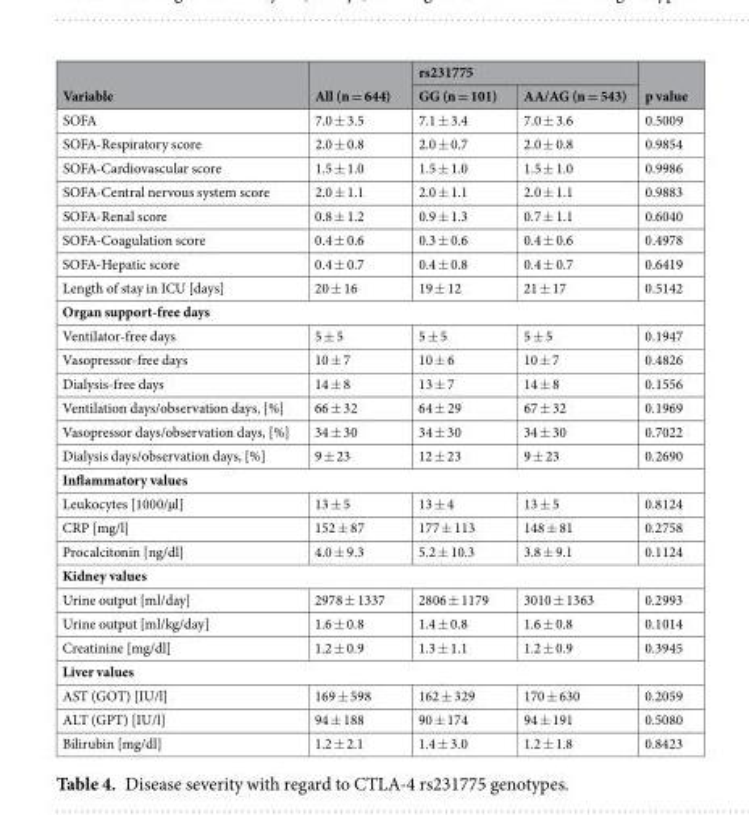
<table><thead><tr><td rowspan="2">Variable</td><td rowspan="2">All (n = 644)</td><td colspan="2">rs231775</td><td rowspan="2">p value</td></tr><tr><td>GG (n = 101)</td><td>AA/AG (n = 543)</td></tr></thead><tbody><tr><td>SOFA</td><td>7.0 ± 3.5</td><td>7.1 ± 3.4</td><td>7.0 ± 3.6</td><td>0.5009</td></tr><tr><td>SOFA-Respiratory score</td><td>2.0 ± 0.8</td><td>2.0 ± 0.7</td><td>2.0 ± 0.8</td><td>0.9854</td></tr><tr><td>SOFA-Cardiovascular score</td><td>1.5 ± 1.0</td><td>1.5 ± 1.0</td><td>1.5 ± 1.0</td><td>0.9986</td></tr><tr><td>SOFA-Central nervous system score</td><td>2.0 ± 1.1</td><td>2.0 ± 1.1</td><td>2.0 ± 1.1</td><td>0.9883</td></tr><tr><td>SOFA-Renal score</td><td>0.8 ± 1.2</td><td>0.9 ± 1.3</td><td>0.7 ± 1.1</td><td>0.6040</td></tr><tr><td>SOFA-Coagulation score</td><td>0.4 ± 0.6</td><td>0.3 ± 0.6</td><td>0.4 ± 0.6</td><td>0.4978</td></tr><tr><td>SOFA-Hepatic score</td><td>0.4 ± 0.7</td><td>0.4 ± 0.8</td><td>0.4 ± 0.7</td><td>0.6419</td></tr><tr><td>Length of stay in ICU [days]</td><td>20 ± 16</td><td>19 ± 12</td><td>21 ± 17</td><td>0.5142</td></tr><tr><td colspan="5">Organ support-free days</td></tr><tr><td>Ventilator-free days</td><td>5 ± 5</td><td>5 ± 5</td><td>5 ± 5</td><td>0.1947</td></tr><tr><td>Vasopressor-free days</td><td>10 ± 7</td><td>10 ± 6</td><td>10 ± 7</td><td>0.4826</td></tr><tr><td>Dialysis-free days</td><td>14 ± 8</td><td>13 ± 7</td><td>14 ± 8</td><td>0.1556</td></tr><tr><td>Ventilation days/observation days, [%]</td><td>66 ± 32</td><td>64 ± 29</td><td>67 ± 32</td><td>0.1969</td></tr><tr><td>Vasopressor days/observation days, [%]</td><td>34 ± 30</td><td>34 ± 30</td><td>34 ± 30</td><td>0.7022</td></tr><tr><td>Dialysis days/observation days, [%]</td><td>9 ± 23</td><td>12 ± 23</td><td>9 ± 23</td><td>0.2690</td></tr><tr><td colspan="5">Inflammatory values</td></tr><tr><td>Leukocytes [1000/µl]</td><td>13 ± 5</td><td>13 ± 4</td><td>13 ± 5</td><td>0.8124</td></tr><tr><td>CRP [mg/l]</td><td>152 ± 87</td><td>177 ± 113</td><td>148 ± 81</td><td>0.2758</td></tr><tr><td>Procalcitonin [ng/dl]</td><td>4.0 ± 9.3</td><td>5.2 ± 10.3</td><td>3.8 ± 9.1</td><td>0.1124</td></tr><tr><td colspan="5">Kidney values</td></tr><tr><td>Urine output [ml/day]</td><td>2978 ± 1337</td><td>2806 ± 1179</td><td>3010 ± 1363</td><td>0.2993</td></tr><tr><td>Urine output [ml/kg/day]</td><td>1.6 ± 0.8</td><td>1.4 ± 0.8</td><td>1.6 ± 0.8</td><td>0.1014</td></tr><tr><td>Creatinine [mg/dl]</td><td>1.2 ± 0.9</td><td>1.3 ± 1.1</td><td>1.2 ± 0.9</td><td>0.3945</td></tr><tr><td colspan="5">Liver values</td></tr><tr><td>AST (GOT) [IU/l]</td><td>169 ± 598</td><td>162 ± 329</td><td>170 ± 630</td><td>0.2059</td></tr><tr><td>ALT (GPT) [IU/l]</td><td>94 ± 188</td><td>90 ± 174</td><td>94 ± 191</td><td>0.5080</td></tr><tr><td>Bilirubin [mg/dl]</td><td>1.2 ± 2.1</td><td>1.4 ± 3.0</td><td>1.2 ± 1.8</td><td>0.8423</td></tr></tbody></table>